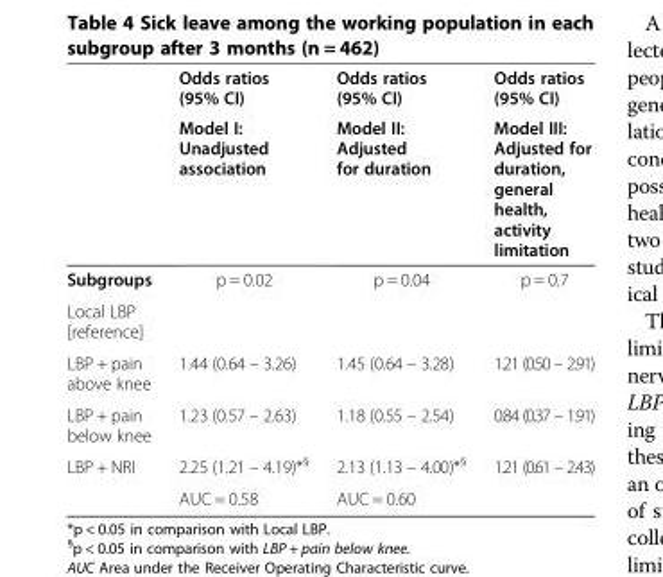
<table><thead><tr><td rowspan="2"></td><td rowspan="2">Odds ratios (95% CI) Model I: Unadjusted association</td><td rowspan="2">Odds ratios (95% CI) Model II: Adjusted for duration</td><td rowspan="2">Odds ratios (95% CI) Model III: Adjusted for duration, general health, activity limitation</td></tr><tr></tr></thead><tbody><tr><td>Subgroups</td><td>p = 0.02</td><td>p = 0.04</td><td>p = 0.7</td></tr><tr><td colspan="4">Local LBP [reference]</td></tr><tr><td>LBP + pain above knee</td><td>1.44 (0.64 – 3.26)</td><td>1.45 (0.64 – 3.28)</td><td>1.21 (0.50 – 2.91)</td></tr><tr><td>LBP + pain below knee</td><td>1.23 (0.57 – 2.63)</td><td>1.18 (0.55 – 2.54)</td><td>0.84 (0.37 – 1.91)</td></tr><tr><td rowspan="2">LBP + NRI</td><td>2.25 (1.21 – 4.19)*<sup>§</sup></td><td>2.13 (1.13 – 4.00)*<sup>§</sup></td><td rowspan="2">1.21 (0.61 – 2.43)</td></tr><tr><td>AUC = 0.58</td><td>AUC = 0.60</td></tr></tbody></table>